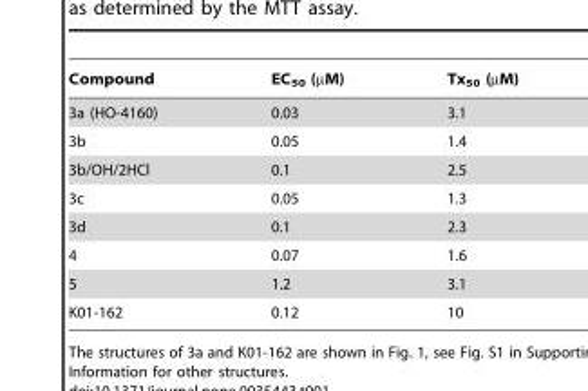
<table><thead><tr><td>Compound</td><td>EC<sub>50</sub> (µM)</td><td>Tx<sub>50</sub> (µM)</td></tr></thead><tbody><tr><td>3a (HO-4160)</td><td>0.03</td><td>3.1</td></tr><tr><td>3b</td><td>0.05</td><td>1.4</td></tr><tr><td>3b/OH/2HCl</td><td>0.1</td><td>2.5</td></tr><tr><td>3c</td><td>0.05</td><td>1.3</td></tr><tr><td>3d</td><td>0.1</td><td>2.3</td></tr><tr><td>4</td><td>0.07</td><td>1.6</td></tr><tr><td>5</td><td>1.2</td><td>3.1</td></tr><tr><td>K01-162</td><td>0.12</td><td>10</td></tr></tbody></table>